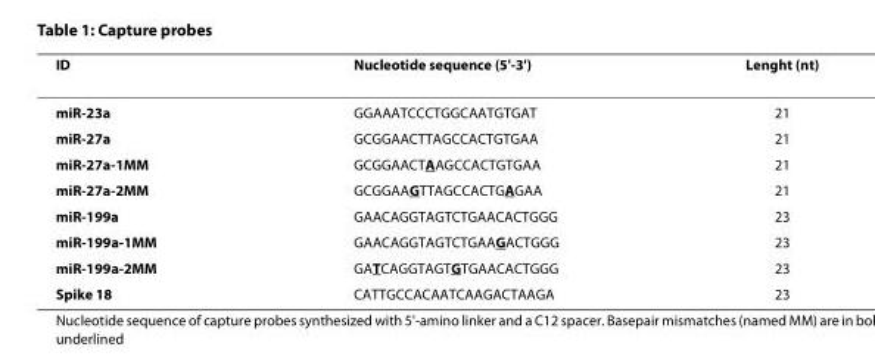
<table><thead><tr><td>ID</td><td>Nucleotide sequence (5&#x27;-3&#x27;)</td><td>Lenght (nt)</td></tr></thead><tbody><tr><td>miR-23a</td><td>GGAAATCCCTGGCAATGTGAT</td><td>21</td></tr><tr><td>miR-27a</td><td>GCGGAACTTAGCCACTGTGAA</td><td>21</td></tr><tr><td>miR-27a-1MM</td><td>GCGGAACTAAGCCACTGTGAA</td><td>21</td></tr><tr><td>miR-27a-2MM</td><td>GCGGAAGTTAGCCACTGAGAA</td><td>21</td></tr><tr><td>miR-199a</td><td>GAACAGGTAGTCTGAACACTGGG</td><td>23</td></tr><tr><td>miR-199a-1MM</td><td>GAACAGGTAGTCTGAAGACTGGG</td><td>23</td></tr><tr><td>miR-199a-2MM</td><td>GATCAGGTAGTGTGAACACTGGG</td><td>23</td></tr><tr><td>Spike 18</td><td>CATTGCCACAATCAAGACTAAGA</td><td>23</td></tr></tbody></table>